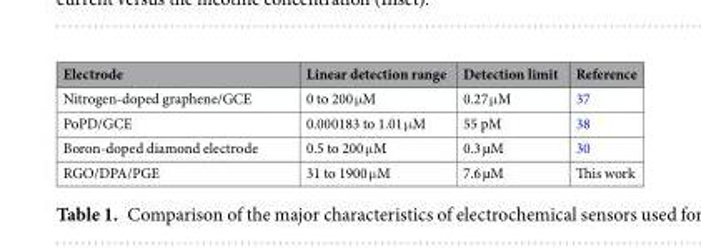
<table><thead><tr><td>Electrode</td><td>Linear detection range</td><td>Detection limit</td><td>Reference</td></tr></thead><tbody><tr><td>Nitrogen-doped graphene/GCE</td><td>0 to 200 μM</td><td>0.27 μM</td><td>37</td></tr><tr><td>PoPD/GCE</td><td>0.000183 to 1.01 μM</td><td>55 pM</td><td>38</td></tr><tr><td>Boron-doped diamond electrode</td><td>0.5 to 200 μM</td><td>0.3 µM</td><td>30</td></tr><tr><td>RGO/DPA/PGE</td><td>31 to 1900 μM</td><td>7.6 µM</td><td>This work</td></tr></tbody></table>